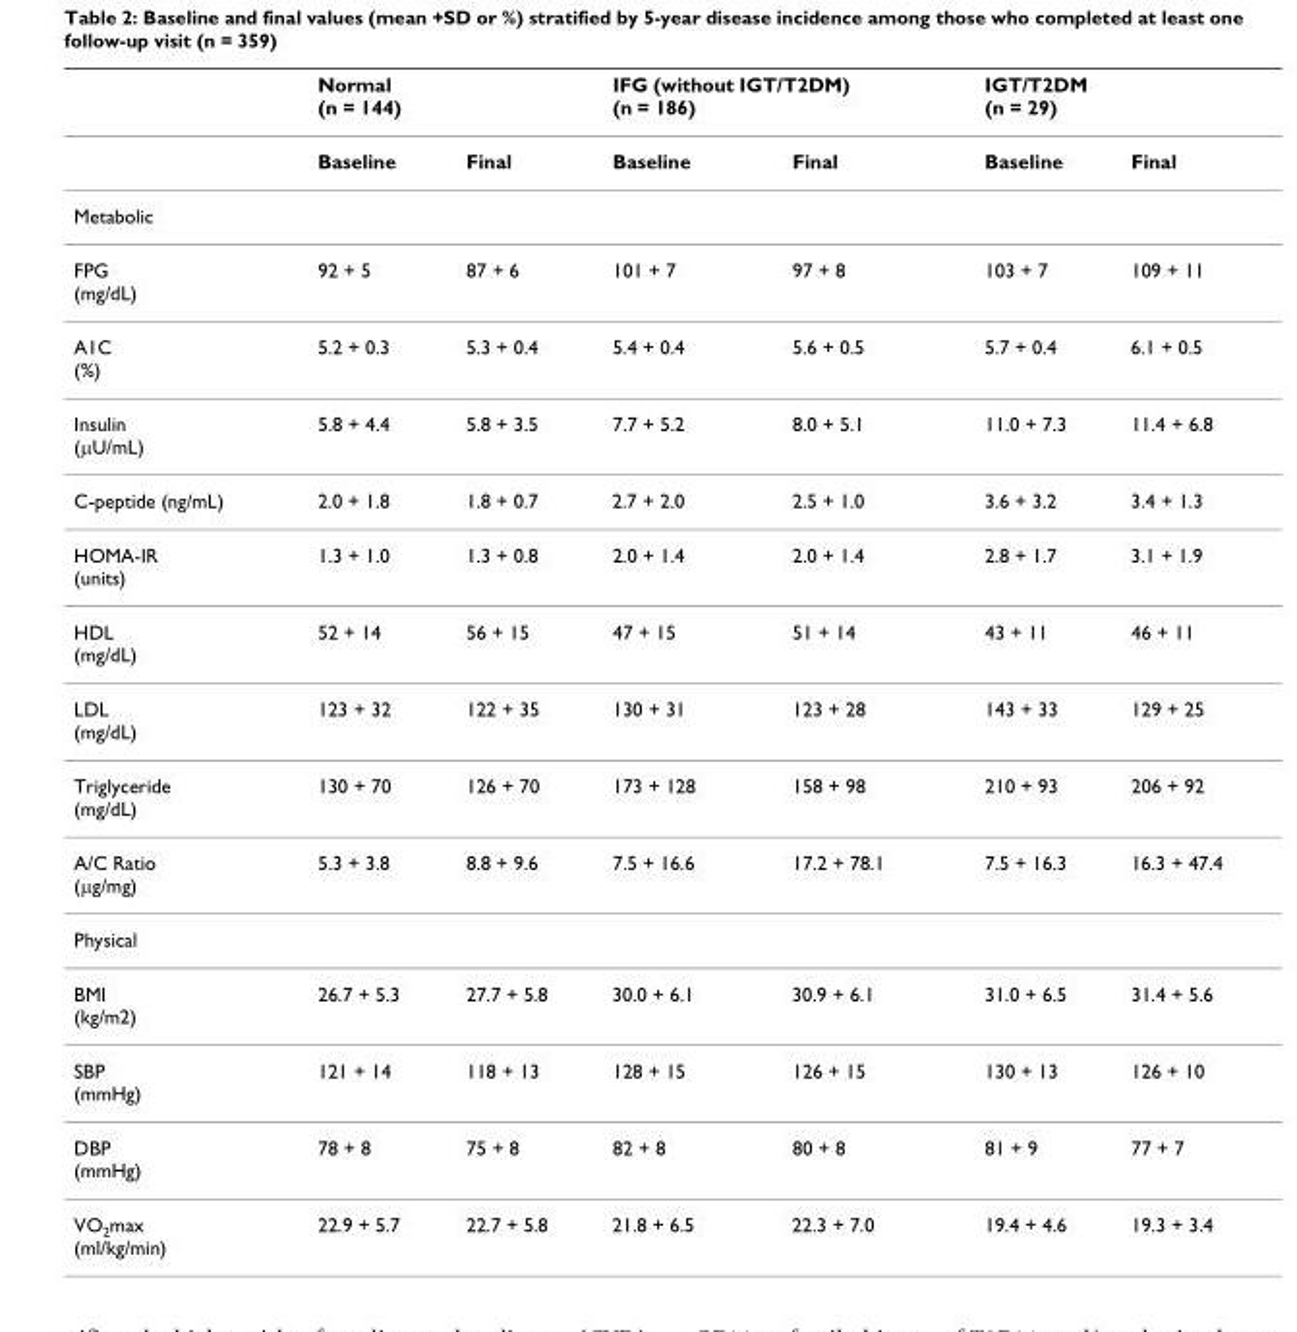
<table><thead><tr><td rowspan="2"></td><td rowspan="2">Normal (n = 144) Baseline</td><td rowspan="2">Final</td><td colspan="2">IFG (without IGT/T2DM) (n = 186)</td><td colspan="2">IGT/T2DM (n = 29)</td></tr><tr><td>Baseline</td><td>Final</td><td>Baseline</td><td>Final</td></tr></thead><tbody><tr><td colspan="7">Metabolic</td></tr><tr><td>FPG (mg/dL)</td><td>92 + 5</td><td>87 + 6</td><td>101 + 7</td><td>97 + 8</td><td>103 + 7</td><td>109 + 11</td></tr><tr><td>A1C (%)</td><td>5.2 + 0.3</td><td>5.3 + 0.4</td><td>5.4 + 0.4</td><td>5.6 + 0.5</td><td>5.7 + 0.4</td><td>6.1 + 0.5</td></tr><tr><td>Insulin (μU/mL)</td><td>5.8 + 4.4</td><td>5.8 + 3.5</td><td>7.7 + 5.2</td><td>8.0 + 5.1</td><td>11.0 + 7.3</td><td>11.4 + 6.8</td></tr><tr><td>C-peptide (ng/mL)</td><td>2.0 + 1.8</td><td>1.8 + 0.7</td><td>2.7 + 2.0</td><td>2.5 + 1.0</td><td>3.6 + 3.2</td><td>3.4 + 1.3</td></tr><tr><td>HOMA-IR (units)</td><td>1.3 + 1.0</td><td>1.3 + 0.8</td><td>2.0 + 1.4</td><td>2.0 + 1.4</td><td>2.8 + 1.7</td><td>3.1 + 1.9</td></tr><tr><td>HDL (mg/dL)</td><td>52 + 14</td><td>56 + 15</td><td>47 + 15</td><td>51 + 14</td><td>43 + 11</td><td>46 + 11</td></tr><tr><td>LDL (mg/dL)</td><td>123 + 32</td><td>122 + 35</td><td>130 + 31</td><td>123 + 28</td><td>143 + 33</td><td>129 + 25</td></tr><tr><td>Triglyceride (mg/dL)</td><td>130 + 70</td><td>126 + 70</td><td>173 + 128</td><td>158 + 98</td><td>210 + 93</td><td>206 + 92</td></tr><tr><td>A/C Ratio (μg/mg)</td><td>5.3 + 3.8</td><td>8.8 + 9.6</td><td>7.5 + 16.6</td><td>17.2 + 78.1</td><td>7.5 + 16.3</td><td>16.3 + 47.4</td></tr><tr><td colspan="7">Physical</td></tr><tr><td>BMI (kg/m2)</td><td>26.7 + 5.3</td><td>27.7 + 5.8</td><td>30.0 + 6.1</td><td>30.9 + 6.1</td><td>31.0 + 6.5</td><td>31.4 + 5.6</td></tr><tr><td>SBP (mmHg)</td><td>121 + 14</td><td>118 + 13</td><td>128 + 15</td><td>126 + 15</td><td>130 + 13</td><td>126 + 10</td></tr><tr><td>DBP (mmHg)</td><td>78 + 8</td><td>75 + 8</td><td>82 + 8</td><td>80 + 8</td><td>81 + 9</td><td>77 + 7</td></tr><tr><td>VO<sub>2</sub>max (ml/kg/min)</td><td>22.9 + 5.7</td><td>22.7 + 5.8</td><td>21.8 + 6.5</td><td>22.3 + 7.0</td><td>19.4 + 4.6</td><td>19.3 + 3.4</td></tr></tbody></table>